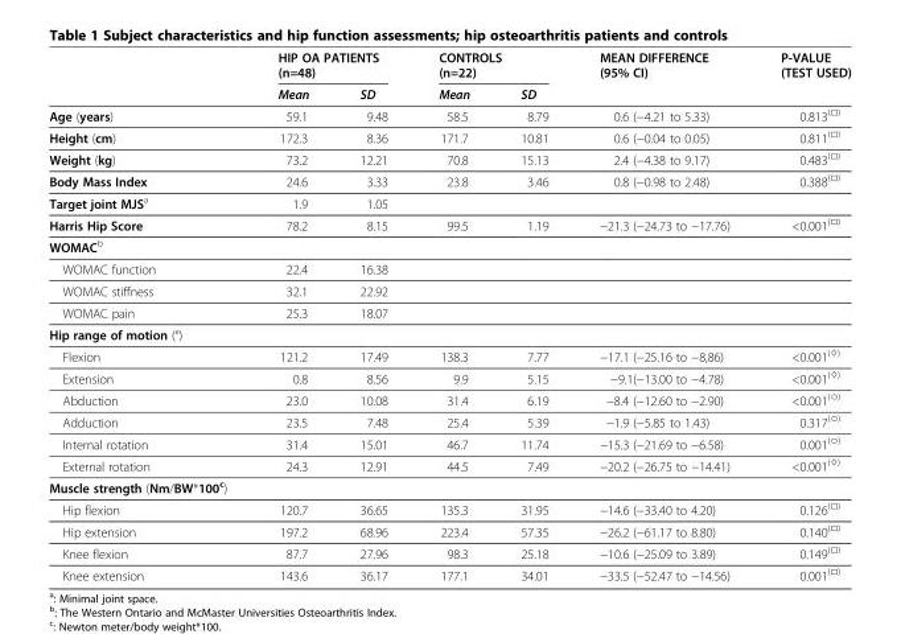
<table><thead><tr><td rowspan="2"></td><td colspan="2">HIP OA PATIENTS (n=48)</td><td colspan="2">CONTROLS (n=22)</td><td rowspan="2">MEAN DIFFERENCE (95% CI)</td><td rowspan="2">P-VALUE (TEST USED)</td></tr><tr><td>Mean</td><td>SD</td><td>Mean</td><td>SD</td></tr></thead><tbody><tr><td>Age (years)</td><td>59.1</td><td>9.48</td><td>58.5</td><td>8.79</td><td>0.6 (−4.21 to 5.33)</td><td>0.813<sup>(□)</sup></td></tr><tr><td>Height (cm)</td><td>172.3</td><td>8.36</td><td>171.7</td><td>10.81</td><td>0.6 (−0.04 to 0.05)</td><td>0.811<sup>(□)</sup></td></tr><tr><td>Weight (kg)</td><td>73.2</td><td>12.21</td><td>70.8</td><td>15.13</td><td>2.4 (−4.38 to 9.17)</td><td>0.483<sup>(□)</sup></td></tr><tr><td>Body Mass Index</td><td>24.6</td><td>3.33</td><td>23.8</td><td>3.46</td><td>0.8 (−0.98 to 2.48)</td><td>0.388<sup>(□)</sup></td></tr><tr><td>Target joint MJS<sup>a</sup></td><td>1.9</td><td>1.05</td><td></td><td></td><td></td><td></td></tr><tr><td>Harris Hip Score</td><td>78.2</td><td>8.15</td><td>99.5</td><td>1.19</td><td>−21.3 (−24.73 to −17.76)</td><td>&lt;0.001<sup>(□)</sup></td></tr><tr><td colspan="7">WOMAC<sup>b</sup></td></tr><tr><td>WOMAC function</td><td>22.4</td><td>16.38</td><td></td><td></td><td></td><td></td></tr><tr><td>WOMAC stiffness</td><td>32.1</td><td>22.92</td><td></td><td></td><td></td><td></td></tr><tr><td>WOMAC pain</td><td>25.3</td><td>18.07</td><td></td><td></td><td></td><td></td></tr><tr><td colspan="7">Hip range of motion (°)</td></tr><tr><td>Flexion</td><td>121.2</td><td>17.49</td><td>138.3</td><td>7.77</td><td>−17.1 (−25.16 to −8,86)</td><td>&lt;0.001<sup>(◊)</sup></td></tr><tr><td>Extension</td><td>0.8</td><td>8.56</td><td>9.9</td><td>5.15</td><td>−9.1(−13.00 to −4.78)</td><td>&lt;0.001<sup>(◊)</sup></td></tr><tr><td>Abduction</td><td>23.0</td><td>10.08</td><td>31.4</td><td>6.19</td><td>−8.4 (−12.60 to −2.90)</td><td>&lt;0.001<sup>(○)</sup></td></tr><tr><td>Adduction</td><td>23.5</td><td>7.48</td><td>25.4</td><td>5.39</td><td>−1.9 (−5.85 to 1.43)</td><td>0.317<sup>(○)</sup></td></tr><tr><td>Internal rotation</td><td>31.4</td><td>15.01</td><td>46.7</td><td>11.74</td><td>−15.3 (−21.69 to −6.58)</td><td>0.001<sup>(○)</sup></td></tr><tr><td>External rotation</td><td>24.3</td><td>12.91</td><td>44.5</td><td>7.49</td><td>−20.2 (−26.75 to −14.41)</td><td>&lt;0.001<sup>(◊)</sup></td></tr><tr><td colspan="7">Muscle strength (Nm/BW*100<sup>c</sup>)</td></tr><tr><td>Hip flexion</td><td>120.7</td><td>36.65</td><td>135.3</td><td>31.95</td><td>−14.6 (−33.40 to 4.20)</td><td>0.126<sup>(□)</sup></td></tr><tr><td>Hip extension</td><td>197.2</td><td>68.96</td><td>223.4</td><td>57.35</td><td>−26.2 (−61.17 to 8.80)</td><td>0.140<sup>(□)</sup></td></tr><tr><td>Knee flexion</td><td>87.7</td><td>27.96</td><td>98.3</td><td>25.18</td><td>−10.6 (−25.09 to 3.89)</td><td>0.149<sup>(□)</sup></td></tr><tr><td>Knee extension</td><td>143.6</td><td>36.17</td><td>177.1</td><td>34.01</td><td>−33.5 (−52.47 to −14.56)</td><td>0.001<sup>(□)</sup></td></tr></tbody></table>